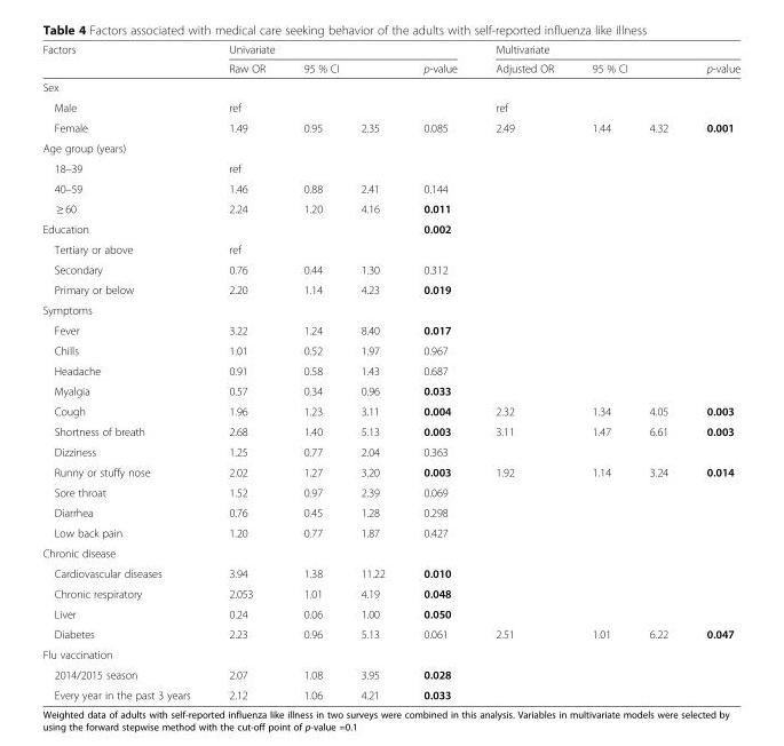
<table><thead><tr><td rowspan="2">Factors</td><td colspan="4">Univariate</td><td colspan="4">Multivariate</td></tr><tr><td>Raw OR</td><td colspan="2">95 % CI</td><td>p-value</td><td>Adjusted OR</td><td colspan="2">95 % CI</td><td>p-value</td></tr><tr><td colspan="9">Sex</td></tr><tr><td>Male</td><td>ref</td><td></td><td></td><td></td><td>ref</td><td></td><td></td><td></td></tr></thead><tbody><tr><td>Female</td><td>1.49</td><td>0.95</td><td>2.35</td><td>0.085</td><td>2.49</td><td>1.44</td><td>4.32</td><td>0.001</td></tr><tr><td colspan="9">Age group (years)</td></tr><tr><td>18–39</td><td>ref</td><td></td><td></td><td></td><td></td><td></td><td></td><td></td></tr><tr><td>40–59</td><td>1.46</td><td>0.88</td><td>2.41</td><td>0.144</td><td></td><td></td><td></td><td></td></tr><tr><td>≥ 60</td><td>2.24</td><td>1.20</td><td>4.16</td><td>0.011</td><td></td><td></td><td></td><td></td></tr><tr><td>Education</td><td></td><td></td><td></td><td>0.002</td><td></td><td></td><td></td><td></td></tr><tr><td>Tertiary or above</td><td>ref</td><td></td><td></td><td></td><td></td><td></td><td></td><td></td></tr><tr><td>Secondary</td><td>0.76</td><td>0.44</td><td>1.30</td><td>0.312</td><td></td><td></td><td></td><td></td></tr><tr><td>Primary or below</td><td>2.20</td><td>1.14</td><td>4.23</td><td>0.019</td><td></td><td></td><td></td><td></td></tr><tr><td colspan="9">Symptoms</td></tr><tr><td>Fever</td><td>3.22</td><td>1.24</td><td>8.40</td><td>0.017</td><td></td><td></td><td></td><td></td></tr><tr><td>Chills</td><td>1.01</td><td>0.52</td><td>1.97</td><td>0.967</td><td></td><td></td><td></td><td></td></tr><tr><td>Headache</td><td>0.91</td><td>0.58</td><td>1.43</td><td>0.687</td><td></td><td></td><td></td><td></td></tr><tr><td>Myalgia</td><td>0.57</td><td>0.34</td><td>0.96</td><td>0.033</td><td></td><td></td><td></td><td></td></tr><tr><td>Cough</td><td>1.96</td><td>1.23</td><td>3.11</td><td>0.004</td><td>2.32</td><td>1.34</td><td>4.05</td><td>0.003</td></tr><tr><td>Shortness of breath</td><td>2.68</td><td>1.40</td><td>5.13</td><td>0.003</td><td>3.11</td><td>1.47</td><td>6.61</td><td>0.003</td></tr><tr><td>Dizziness</td><td>1.25</td><td>0.77</td><td>2.04</td><td>0.363</td><td></td><td></td><td></td><td></td></tr><tr><td>Runny or stuffy nose</td><td>2.02</td><td>1.27</td><td>3.20</td><td>0.003</td><td>1.92</td><td>1.14</td><td>3.24</td><td>0.014</td></tr><tr><td>Sore throat</td><td>1.52</td><td>0.97</td><td>2.39</td><td>0.069</td><td></td><td></td><td></td><td></td></tr><tr><td>Diarrhea</td><td>0.76</td><td>0.45</td><td>1.28</td><td>0.298</td><td></td><td></td><td></td><td></td></tr><tr><td>Low back pain</td><td>1.20</td><td>0.77</td><td>1.87</td><td>0.427</td><td></td><td></td><td></td><td></td></tr><tr><td colspan="9">Chronic disease</td></tr><tr><td>Cardiovascular diseases</td><td>3.94</td><td>1.38</td><td>11.22</td><td>0.010</td><td></td><td></td><td></td><td></td></tr><tr><td>Chronic respiratory</td><td>2.053</td><td>1.01</td><td>4.19</td><td>0.048</td><td></td><td></td><td></td><td></td></tr><tr><td>Liver</td><td>0.24</td><td>0.06</td><td>1.00</td><td>0.050</td><td></td><td></td><td></td><td></td></tr><tr><td>Diabetes</td><td>2.23</td><td>0.96</td><td>5.13</td><td>0.061</td><td>2.51</td><td>1.01</td><td>6.22</td><td>0.047</td></tr><tr><td colspan="9">Flu vaccination</td></tr><tr><td>2014/2015 season</td><td>2.07</td><td>1.08</td><td>3.95</td><td>0.028</td><td></td><td></td><td></td><td></td></tr><tr><td>Every year in the past 3 years</td><td>2.12</td><td>1.06</td><td>4.21</td><td>0.033</td><td></td><td></td><td></td><td></td></tr></tbody></table>